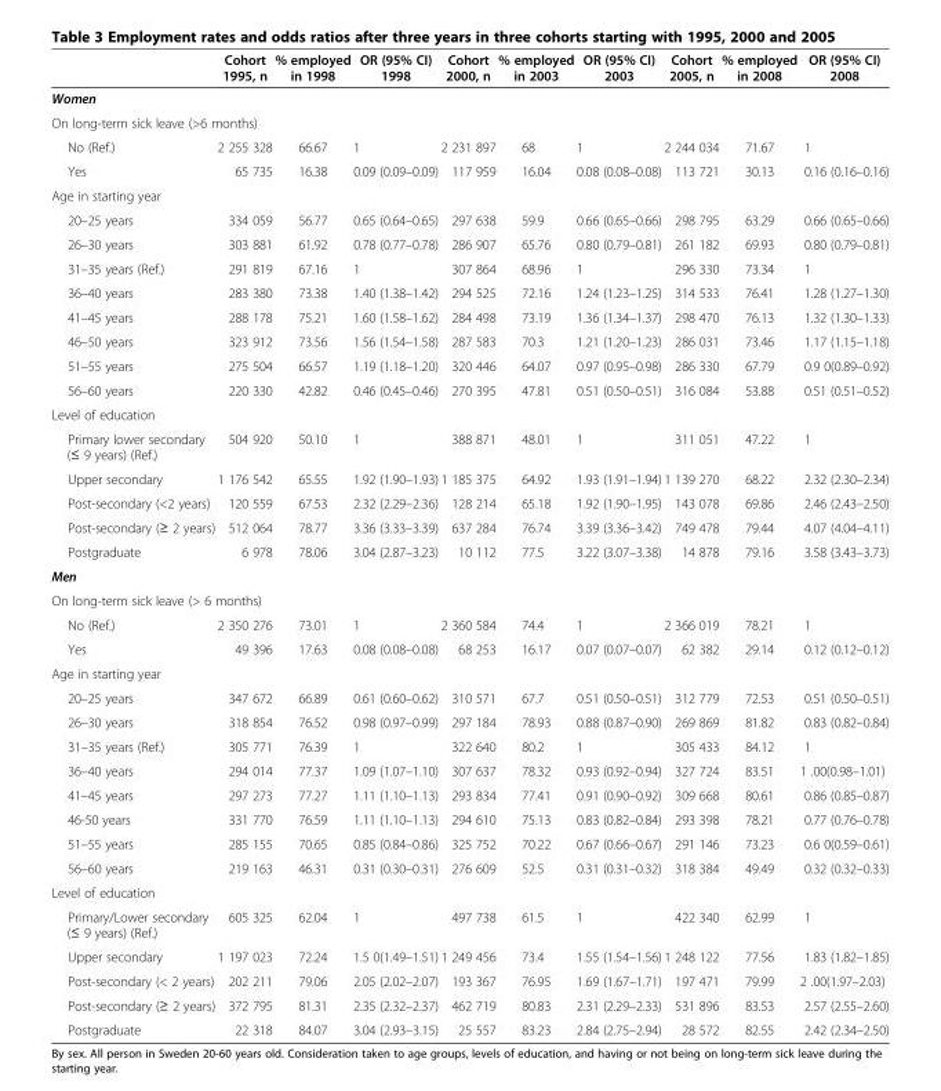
<table><thead><tr><td></td><td>Cohort 1995, n</td><td>% employed in 1998</td><td>OR (95% CI) 1998</td><td>Cohort 2000, n</td><td>% employed in 2003</td><td>OR (95% CI) 2003</td><td>Cohort 2005, n</td><td>% employed in 2008</td><td>OR (95% CI) 2008</td></tr></thead><tbody><tr><td colspan="10">Women</td></tr><tr><td colspan="10">On long-term sick leave (&gt;6 months)</td></tr><tr><td>No (Ref.)</td><td>2 255 328</td><td>66.67</td><td>1</td><td>2 231 897</td><td>68</td><td>1</td><td>2 244 034</td><td>71.67</td><td>1</td></tr><tr><td>Yes</td><td>65 735</td><td>16.38</td><td>0.09 (0.09–0.09)</td><td>117 959</td><td>16.04</td><td>0.08 (0.08–0.08)</td><td>113 721</td><td>30.13</td><td>0.16 (0.16–0.16)</td></tr><tr><td colspan="10">Age in starting year</td></tr><tr><td>20–25 years</td><td>334 059</td><td>56.77</td><td>0.65 (0.64–0.65)</td><td>297 638</td><td>59.9</td><td>0.66 (0.65–0.66)</td><td>298 795</td><td>63.29</td><td>0.66 (0.65–0.66)</td></tr><tr><td>26–30 years</td><td>303 881</td><td>61.92</td><td>0.78 (0.77–0.78)</td><td>286 907</td><td>65.76</td><td>0.80 (0.79–0.81)</td><td>261 182</td><td>69.93</td><td>0.80 (0.79–0.81)</td></tr><tr><td>31–35 years (Ref.)</td><td>291 819</td><td>67.16</td><td>1</td><td>307 864</td><td>68.96</td><td>1</td><td>296 330</td><td>73.34</td><td>1</td></tr><tr><td>36–40 years</td><td>283 380</td><td>73.38</td><td>1.40 (1.38–1.42)</td><td>294 525</td><td>72.16</td><td>1.24 (1.23–1.25)</td><td>314 533</td><td>76.41</td><td>1.28 (1.27–1.30)</td></tr><tr><td>41–45 years</td><td>288 178</td><td>75.21</td><td>1.60 (1.58–1.62)</td><td>284 498</td><td>73.19</td><td>1.36 (1.34–1.37)</td><td>298 470</td><td>76.13</td><td>1.32 (1.30–1.33)</td></tr><tr><td>46–50 years</td><td>323 912</td><td>73.56</td><td>1.56 (1.54–1.58)</td><td>287 583</td><td>70.3</td><td>1.21 (1.20–1.23)</td><td>286 031</td><td>73.46</td><td>1.17 (1.15–1.18)</td></tr><tr><td>51–55 years</td><td>275 504</td><td>66.57</td><td>1.19 (1.18–1.20)</td><td>320 446</td><td>64.07</td><td>0.97 (0.95–0.98)</td><td>286 330</td><td>67.79</td><td>0.9 0(0.89–0.92)</td></tr><tr><td>56–60 years</td><td>220 330</td><td>42.82</td><td>0.46 (0.45–0.46)</td><td>270 395</td><td>47.81</td><td>0.51 (0.50–0.51)</td><td>316 084</td><td>53.88</td><td>0.51 (0.51–0.52)</td></tr><tr><td colspan="10">Level of education</td></tr><tr><td>Primary lower secondary (≤ 9 years) (Ref.)</td><td>504 920</td><td>50.10</td><td>1</td><td>388 871</td><td>48.01</td><td>1</td><td>311 051</td><td>47.22</td><td>1</td></tr><tr><td>Upper secondary</td><td>1 176 542</td><td>65.55</td><td>1.92 (1.90–1.93)</td><td>1 185 375</td><td>64.92</td><td>1.93 (1.91–1.94)</td><td>1 139 270</td><td>68.22</td><td>2.32 (2.30–2.34)</td></tr><tr><td>Post-secondary (&lt;2 years)</td><td>120 559</td><td>67.53</td><td>2.32 (2.29–2.36)</td><td>128 214</td><td>65.18</td><td>1.92 (1.90–1.95)</td><td>143 078</td><td>69.86</td><td>2.46 (2.43–2.50)</td></tr><tr><td>Post-secondary (≥ 2 years)</td><td>512 064</td><td>78.77</td><td>3.36 (3.33–3.39)</td><td>637 284</td><td>76.74</td><td>3.39 (3.36–3.42)</td><td>749 478</td><td>79.44</td><td>4.07 (4.04–4.11)</td></tr><tr><td>Postgraduate</td><td>6 978</td><td>78.06</td><td>3.04 (2.87–3.23)</td><td>10 112</td><td>77.5</td><td>3.22 (3.07–3.38)</td><td>14 878</td><td>79.16</td><td>3.58 (3.43–3.73)</td></tr><tr><td colspan="10">Men</td></tr><tr><td colspan="10">On long-term sick leave (&gt; 6 months)</td></tr><tr><td>No (Ref.)</td><td>2 350 276</td><td>73.01</td><td>1</td><td>2 360 584</td><td>74.4</td><td>1</td><td>2 366 019</td><td>78.21</td><td>1</td></tr><tr><td>Yes</td><td>49 396</td><td>17.63</td><td>0.08 (0.08–0.08)</td><td>68 253</td><td>16.17</td><td>0.07 (0.07–0.07)</td><td>62 382</td><td>29.14</td><td>0.12 (0.12–0.12)</td></tr><tr><td colspan="10">Age in starting year</td></tr><tr><td>20–25 years</td><td>347 672</td><td>66.89</td><td>0.61 (0.60–0.62)</td><td>310 571</td><td>67.7</td><td>0.51 (0.50–0.51)</td><td>312 779</td><td>72.53</td><td>0.51 (0.50–0.51)</td></tr><tr><td>26–30 years</td><td>318 854</td><td>76.52</td><td>0.98 (0.97–0.99)</td><td>297 184</td><td>78.93</td><td>0.88 (0.87–0.90)</td><td>269 869</td><td>81.82</td><td>0.83 (0.82–0.84)</td></tr><tr><td>31–35 years (Ref.)</td><td>305 771</td><td>76.39</td><td>1</td><td>322 640</td><td>80.2</td><td>1</td><td>305 433</td><td>84.12</td><td>1</td></tr><tr><td>36–40 years</td><td>294 014</td><td>77.37</td><td>1.09 (1.07–1.10)</td><td>307 637</td><td>78.32</td><td>0.93 (0.92–0.94)</td><td>327 724</td><td>83.51</td><td>1 .00(0.98–1.01)</td></tr><tr><td>41–45 years</td><td>297 273</td><td>77.27</td><td>1.11 (1.10–1.13)</td><td>293 834</td><td>77.41</td><td>0.91 (0.90–0.92)</td><td>309 668</td><td>80.61</td><td>0.86 (0.85–0.87)</td></tr><tr><td>46-50 years</td><td>331 770</td><td>76.59</td><td>1.11 (1.10–1.13)</td><td>294 610</td><td>75.13</td><td>0.83 (0.82–0.84)</td><td>293 398</td><td>78.21</td><td>0.77 (0.76–0.78)</td></tr><tr><td>51–55 years</td><td>285 155</td><td>70.65</td><td>0.85 (0.84–0.86)</td><td>325 752</td><td>70.22</td><td>0.67 (0.66–0.67)</td><td>291 146</td><td>73.23</td><td>0.6 0(0.59–0.61)</td></tr><tr><td>56–60 years</td><td>219 163</td><td>46.31</td><td>0.31 (0.30–0.31)</td><td>276 609</td><td>52.5</td><td>0.31 (0.31–0.32)</td><td>318 384</td><td>49.49</td><td>0.32 (0.32–0.33)</td></tr><tr><td colspan="10">Level of education</td></tr><tr><td>Primary/Lower secondary (≤ 9 years) (Ref.)</td><td>605 325</td><td>62.04</td><td>1</td><td>497 738</td><td>61.5</td><td>1</td><td>422 340</td><td>62.99</td><td>1</td></tr><tr><td>Upper secondary</td><td>1 197 023</td><td>72.24</td><td>1.5 0(1.49–1.51)</td><td>1 249 456</td><td>73.4</td><td>1.55 (1.54–1.56)</td><td>1 248 122</td><td>77.56</td><td>1.83 (1.82–1.85)</td></tr><tr><td>Post-secondary (&lt; 2 years)</td><td>202 211</td><td>79.06</td><td>2.05 (2.02–2.07)</td><td>193 367</td><td>76.95</td><td>1.69 (1.67–1.71)</td><td>197 471</td><td>79.99</td><td>2 .00(1.97–2.03)</td></tr><tr><td>Post-secondary (≥ 2 years)</td><td>372 795</td><td>81.31</td><td>2.35 (2.32–2.37)</td><td>462 719</td><td>80.83</td><td>2.31 (2.29–2.33)</td><td>531 896</td><td>83.53</td><td>2.57 (2.55–2.60)</td></tr><tr><td>Postgraduate</td><td>22 318</td><td>84.07</td><td>3.04 (2.93–3.15)</td><td>25 557</td><td>83.23</td><td>2.84 (2.75–2.94)</td><td>28 572</td><td>82.55</td><td>2.42 (2.34–2.50)</td></tr></tbody></table>